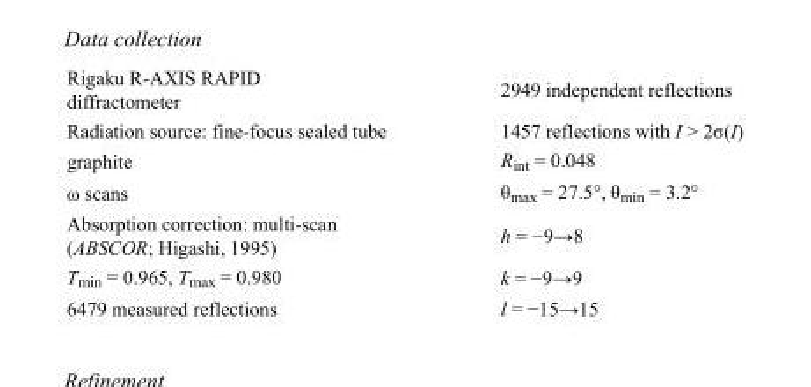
<table><tbody><tr><td>Rigaku R-AXIS RAPID diffractometer</td><td>2949 independent reflections</td></tr><tr><td>Radiation source: fine-focus sealed tube</td><td>1457 reflections with I &gt; 2σ(I)</td></tr><tr><td>graphite</td><td>R<sub>int</sub> = 0.048</td></tr><tr><td>ω scans</td><td>θ<sub>max</sub> = 27.5°, θ<sub>min</sub> = 3.2°</td></tr><tr><td>Absorption correction: multi-scan (ABSCOR; Higashi, 1995)</td><td>h = −9→8</td></tr><tr><td>T<sub>min</sub> = 0.965, T<sub>max</sub> = 0.980</td><td>k = −9→9</td></tr><tr><td>6479 measured reflections</td><td>l = −15→15</td></tr></tbody></table>